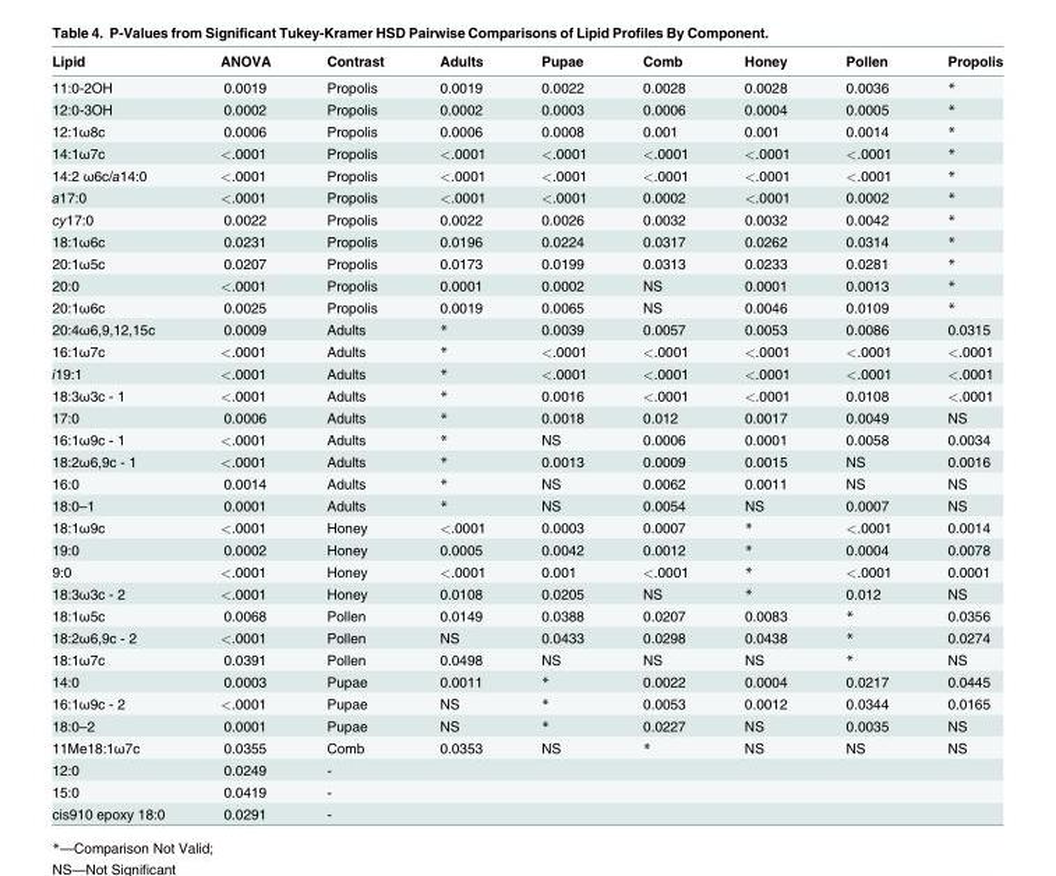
<table><thead><tr><td>Lipid</td><td>ANOVA</td><td>Contrast</td><td>Adults</td><td>Pupae</td><td>Comb</td><td>Honey</td><td>Pollen</td><td>Propolis</td></tr></thead><tbody><tr><td>11:0-2OH</td><td>0.0019</td><td>Propolis</td><td>0.0019</td><td>0.0022</td><td>0.0028</td><td>0.0028</td><td>0.0036</td><td>*</td></tr><tr><td>12:0-3OH</td><td>0.0002</td><td>Propolis</td><td>0.0002</td><td>0.0003</td><td>0.0006</td><td>0.0004</td><td>0.0005</td><td>*</td></tr><tr><td>12:1ω8c</td><td>0.0006</td><td>Propolis</td><td>0.0006</td><td>0.0008</td><td>0.001</td><td>0.001</td><td>0.0014</td><td>*</td></tr><tr><td>14:1ω7c</td><td>&lt;.0001</td><td>Propolis</td><td>&lt;.0001</td><td>&lt;.0001</td><td>&lt;.0001</td><td>&lt;.0001</td><td>&lt;.0001</td><td>*</td></tr><tr><td>14:2 ω6c/a14:0</td><td>&lt;.0001</td><td>Propolis</td><td>&lt;.0001</td><td>&lt;.0001</td><td>&lt;.0001</td><td>&lt;.0001</td><td>&lt;.0001</td><td>*</td></tr><tr><td>a17:0</td><td>&lt;.0001</td><td>Propolis</td><td>&lt;.0001</td><td>&lt;.0001</td><td>0.0002</td><td>&lt;.0001</td><td>0.0002</td><td>*</td></tr><tr><td>cy17:0</td><td>0.0022</td><td>Propolis</td><td>0.0022</td><td>0.0026</td><td>0.0032</td><td>0.0032</td><td>0.0042</td><td>*</td></tr><tr><td>18:1ω6c</td><td>0.0231</td><td>Propolis</td><td>0.0196</td><td>0.0224</td><td>0.0317</td><td>0.0262</td><td>0.0314</td><td>*</td></tr><tr><td>20:1ω5c</td><td>0.0207</td><td>Propolis</td><td>0.0173</td><td>0.0199</td><td>0.0313</td><td>0.0233</td><td>0.0281</td><td>*</td></tr><tr><td>20:0</td><td>&lt;.0001</td><td>Propolis</td><td>0.0001</td><td>0.0002</td><td>NS</td><td>0.0001</td><td>0.0013</td><td>*</td></tr><tr><td>20:1ω6c</td><td>0.0025</td><td>Propolis</td><td>0.0019</td><td>0.0065</td><td>NS</td><td>0.0046</td><td>0.0109</td><td>*</td></tr><tr><td>20:4ω6,9,12,15c</td><td>0.0009</td><td>Adults</td><td>*</td><td>0.0039</td><td>0.0057</td><td>0.0053</td><td>0.0086</td><td>0.0315</td></tr><tr><td>16:1ω7c</td><td>&lt;.0001</td><td>Adults</td><td>*</td><td>&lt;.0001</td><td>&lt;.0001</td><td>&lt;.0001</td><td>&lt;.0001</td><td>&lt;.0001</td></tr><tr><td>i19:1</td><td>&lt;.0001</td><td>Adults</td><td>*</td><td>&lt;.0001</td><td>&lt;.0001</td><td>&lt;.0001</td><td>&lt;.0001</td><td>&lt;.0001</td></tr><tr><td>18:3ω3c - 1</td><td>&lt;.0001</td><td>Adults</td><td>*</td><td>0.0016</td><td>&lt;.0001</td><td>&lt;.0001</td><td>0.0108</td><td>&lt;.0001</td></tr><tr><td>17:0</td><td>0.0006</td><td>Adults</td><td>*</td><td>0.0018</td><td>0.012</td><td>0.0017</td><td>0.0049</td><td>NS</td></tr><tr><td>16:1ω9c - 1</td><td>&lt;.0001</td><td>Adults</td><td>*</td><td>NS</td><td>0.0006</td><td>0.0001</td><td>0.0058</td><td>0.0034</td></tr><tr><td>18:2ω6,9c - 1</td><td>&lt;.0001</td><td>Adults</td><td>*</td><td>0.0013</td><td>0.0009</td><td>0.0015</td><td>NS</td><td>0.0016</td></tr><tr><td>16:0</td><td>0.0014</td><td>Adults</td><td>*</td><td>NS</td><td>0.0062</td><td>0.0011</td><td>NS</td><td>NS</td></tr><tr><td>18:0–1</td><td>0.0001</td><td>Adults</td><td>*</td><td>NS</td><td>0.0054</td><td>NS</td><td>0.0007</td><td>NS</td></tr><tr><td>18:1ω9c</td><td>&lt;.0001</td><td>Honey</td><td>&lt;.0001</td><td>0.0003</td><td>0.0007</td><td>*</td><td>&lt;.0001</td><td>0.0014</td></tr><tr><td>19:0</td><td>0.0002</td><td>Honey</td><td>0.0005</td><td>0.0042</td><td>0.0012</td><td>*</td><td>0.0004</td><td>0.0078</td></tr><tr><td>9:0</td><td>&lt;.0001</td><td>Honey</td><td>&lt;.0001</td><td>0.001</td><td>&lt;.0001</td><td>*</td><td>&lt;.0001</td><td>0.0001</td></tr><tr><td>18:3ω3c - 2</td><td>&lt;.0001</td><td>Honey</td><td>0.0108</td><td>0.0205</td><td>NS</td><td>*</td><td>0.012</td><td>NS</td></tr><tr><td>18:1ω5c</td><td>0.0068</td><td>Pollen</td><td>0.0149</td><td>0.0388</td><td>0.0207</td><td>0.0083</td><td>*</td><td>0.0356</td></tr><tr><td>18:2ω6,9c - 2</td><td>&lt;.0001</td><td>Pollen</td><td>NS</td><td>0.0433</td><td>0.0298</td><td>0.0438</td><td>*</td><td>0.0274</td></tr><tr><td>18:1ω7c</td><td>0.0391</td><td>Pollen</td><td>0.0498</td><td>NS</td><td>NS</td><td>NS</td><td>*</td><td>NS</td></tr><tr><td>14:0</td><td>0.0003</td><td>Pupae</td><td>0.0011</td><td>*</td><td>0.0022</td><td>0.0004</td><td>0.0217</td><td>0.0445</td></tr><tr><td>16:1ω9c - 2</td><td>&lt;.0001</td><td>Pupae</td><td>NS</td><td>*</td><td>0.0053</td><td>0.0012</td><td>0.0344</td><td>0.0165</td></tr><tr><td>18:0–2</td><td>0.0001</td><td>Pupae</td><td>NS</td><td>*</td><td>0.0227</td><td>NS</td><td>0.0035</td><td>NS</td></tr><tr><td>11Me18:1ω7c</td><td>0.0355</td><td>Comb</td><td>0.0353</td><td>NS</td><td>*</td><td>NS</td><td>NS</td><td>NS</td></tr><tr><td>12:0</td><td>0.0249</td><td>-</td><td></td><td></td><td></td><td></td><td></td><td></td></tr><tr><td>15:0</td><td>0.0419</td><td>-</td><td></td><td></td><td></td><td></td><td></td><td></td></tr><tr><td>cis910 epoxy 18:0</td><td>0.0291</td><td>-</td><td></td><td></td><td></td><td></td><td></td><td></td></tr></tbody></table>